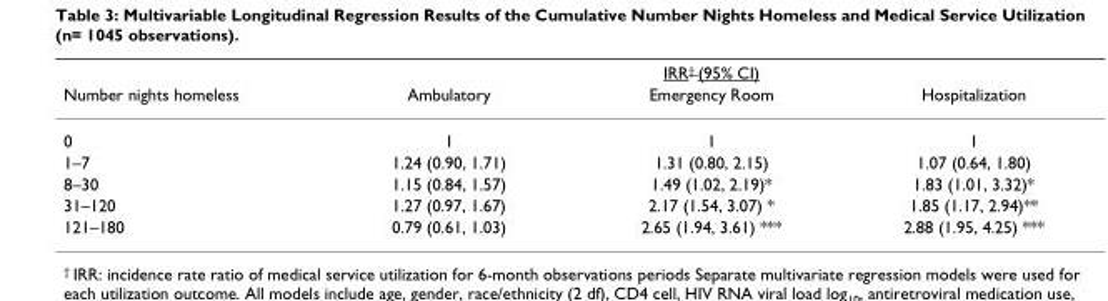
<table><thead><tr><td rowspan="2">Number nights homeless</td><td colspan="3">IRR† (95% CI)</td></tr><tr><td>Ambulatory</td><td>Emergency Room</td><td>Hospitalization</td></tr></thead><tbody><tr><td>0</td><td>1</td><td>1</td><td>1</td></tr><tr><td>1–7</td><td>1.24 (0.90, 1.71)</td><td>1.31 (0.80, 2.15)</td><td>1.07 (0.64, 1.80)</td></tr><tr><td>8–30</td><td>1.15 (0.84, 1.57)</td><td>1.49 (1.02, 2.19)*</td><td>1.83 (1.01, 3.32)*</td></tr><tr><td>31–120</td><td>1.27 (0.97, 1.67)</td><td>2.17 (1.54, 3.07) *</td><td>1.85 (1.17, 2.94)**</td></tr><tr><td>121–180</td><td>0.79 (0.61, 1.03)</td><td>2.65 (1.94, 3.61) ***</td><td>2.88 (1.95, 4.25) ***</td></tr></tbody></table>